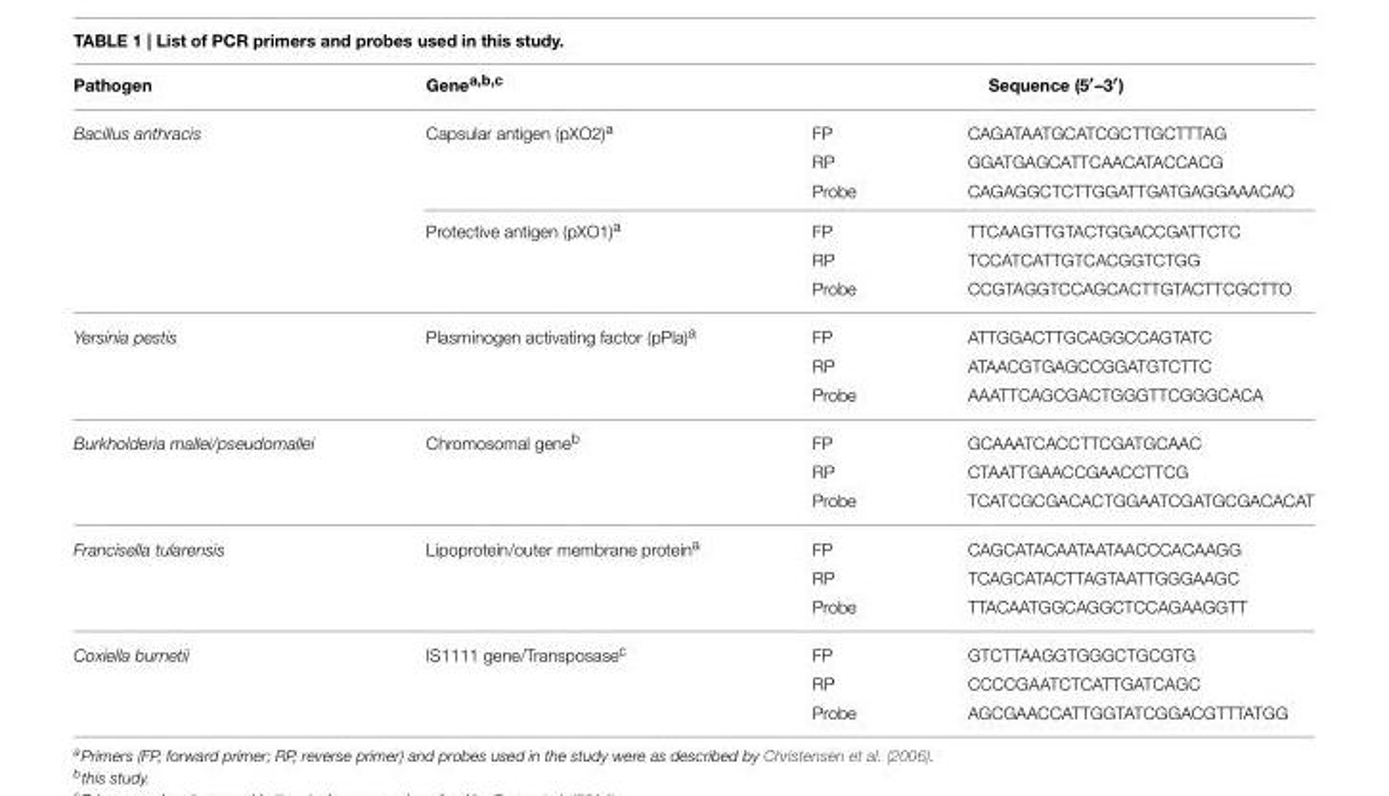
<table><thead><tr><td>Pathogen</td><td>Gene<sup>a,b,c</sup></td><td></td><td>Sequence (5′–3′)</td></tr></thead><tbody><tr><td rowspan="6">Bacillus anthracis</td><td>Capsular antigen (pXO2)<sup>a</sup></td><td>FP</td><td>CAGATAATGCATCGCTTGCTTTAG</td></tr><tr><td></td><td>RP</td><td>GGATGAGCATTCAACATACCACG</td></tr><tr><td></td><td>Probe</td><td>CAGAGGCTCTTGGATTGATGAGGAAACAO</td></tr><tr><td>Protective antigen (pXO1)<sup>a</sup></td><td>FP</td><td>TTCAAGTTGTACTGGACCGATTCTC</td></tr><tr><td></td><td>RP</td><td>TCCATCATTGTCACGGTCTGG</td></tr><tr><td></td><td>Probe</td><td>CCGTAGGTCCAGCACTTGTACTTCGCTTO</td></tr><tr><td rowspan="3">Yersinia pestis</td><td>Plasminogen activating factor (pPla)<sup>a</sup></td><td>FP</td><td>ATTGGACTTGCAGGCCAGTATC</td></tr><tr><td></td><td>RP</td><td>ATAACGTGAGCCGGATGTCTTC</td></tr><tr><td></td><td>Probe</td><td>AAATTCAGCGACTGGGTTCGGGCACA</td></tr><tr><td rowspan="3">Burkholderia mallei/pseudomallei</td><td>Chromosomal gene<sup>b</sup></td><td>FP</td><td>GCAAATCACCTTCGATGCAAC</td></tr><tr><td></td><td>RP</td><td>CTAATTGAACCGAACCTTCG</td></tr><tr><td></td><td>Probe</td><td>TCATCGCGACACTGGAATCGATGCGACACAT</td></tr><tr><td rowspan="3">Francisella tularensis</td><td>Lipoprotein/outer membrane protein<sup>a</sup></td><td>FP</td><td>CAGCATACAATAATAACCCACAAGG</td></tr><tr><td></td><td>RP</td><td>TCAGCATACTTAGTAATTGGGAAGC</td></tr><tr><td></td><td>Probe</td><td>TTACAATGGCAGGCTCCAGAAGGTT</td></tr><tr><td rowspan="3">Coxiella burnetii</td><td>IS1111 gene/Transposase<sup>c</sup></td><td>FP</td><td>GTCTTAAGGTGGGCTGCGTG</td></tr><tr><td></td><td>RP</td><td>CCCCGAATCTCATTGATCAGC</td></tr><tr><td></td><td>Probe</td><td>AGCGAACCATTGGTATCGGACGTTTATGG</td></tr></tbody></table>